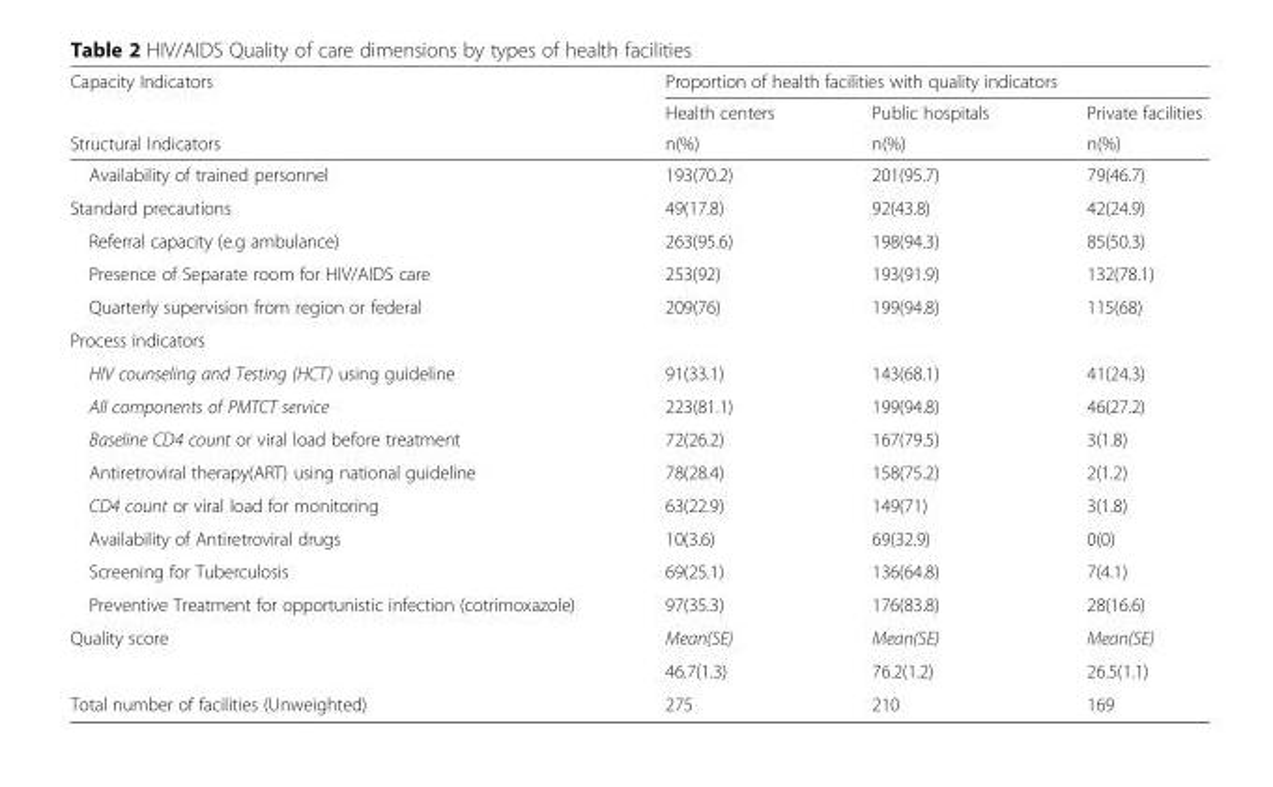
<table><thead><tr><td rowspan="3">Capacity Indicators Structural Indicators</td><td colspan="3">Proportion of health facilities with quality indicators</td></tr><tr><td rowspan="2">Health centers n(%)</td><td rowspan="2">Public hospitals n(%)</td><td rowspan="2">Private facilities n(%)</td></tr><tr></tr></thead><tbody><tr><td>Availability of trained personnel</td><td>193(70.2)</td><td>201(95.7)</td><td>79(46.7)</td></tr><tr><td>Standard precautions</td><td>49(17.8)</td><td>92(43.8)</td><td>42(24.9)</td></tr><tr><td>Referral capacity (e.g ambulance)</td><td>263(95.6)</td><td>198(94.3)</td><td>85(50.3)</td></tr><tr><td>Presence of Separate room for HIV/AIDS care</td><td>253(92)</td><td>193(91.9)</td><td>132(78.1)</td></tr><tr><td>Quarterly supervision from region or federal</td><td>209(76)</td><td>199(94.8)</td><td>115(68)</td></tr><tr><td colspan="4">Process indicators</td></tr><tr><td>HIV counseling and Testing (HCT) using guideline</td><td>91(33.1)</td><td>143(68.1)</td><td>41(24.3)</td></tr><tr><td>All components of PMTCT service</td><td>223(81.1)</td><td>199(94.8)</td><td>46(27.2)</td></tr><tr><td>Baseline CD4 count or viral load before treatment</td><td>72(26.2)</td><td>167(79.5)</td><td>3(1.8)</td></tr><tr><td>Antiretroviral therapy(ART) using national guideline</td><td>78(28.4)</td><td>158(75.2)</td><td>2(1.2)</td></tr><tr><td>CD4 count or viral load for monitoring</td><td>63(22.9)</td><td>149(71)</td><td>3(1.8)</td></tr><tr><td>Availability of Antiretroviral drugs</td><td>10(3.6)</td><td>69(32.9)</td><td>0(0)</td></tr><tr><td>Screening for Tuberculosis</td><td>69(25.1)</td><td>136(64.8)</td><td>7(4.1)</td></tr><tr><td>Preventive Treatment for opportunistic infection (cotrimoxazole)</td><td>97(35.3)</td><td>176(83.8)</td><td>28(16.6)</td></tr><tr><td rowspan="2">Quality score</td><td>Mean(SE)</td><td>Mean(SE)</td><td>Mean(SE)</td></tr><tr><td>46.7(1.3)</td><td>76.2(1.2)</td><td>26.5(1.1)</td></tr><tr><td>Total number of facilities (Unweighted)</td><td>275</td><td>210</td><td>169</td></tr></tbody></table>